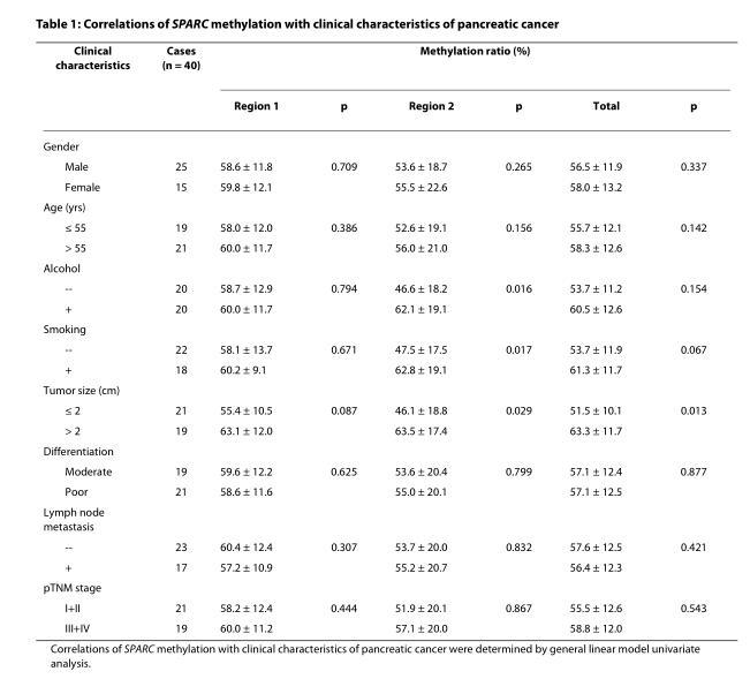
<table><thead><tr><td rowspan="2">Clinical characteristics</td><td rowspan="2">Cases (n = 40)</td><td colspan="6">Methylation ratio (%)</td></tr><tr><td>Region 1</td><td>p</td><td>Region 2</td><td>p</td><td>Total</td><td>p</td></tr></thead><tbody><tr><td colspan="8">Gender</td></tr><tr><td>Male</td><td>25</td><td>58.6 ± 11.8</td><td>0.709</td><td>53.6 ± 18.7</td><td>0.265</td><td>56.5 ± 11.9</td><td>0.337</td></tr><tr><td>Female</td><td>15</td><td>59.8 ± 12.1</td><td></td><td>55.5 ± 22.6</td><td></td><td>58.0 ± 13.2</td><td></td></tr><tr><td colspan="8">Age (yrs)</td></tr><tr><td>≤ 55</td><td>19</td><td>58.0 ± 12.0</td><td>0.386</td><td>52.6 ± 19.1</td><td>0.156</td><td>55.7 ± 12.1</td><td>0.142</td></tr><tr><td>&gt; 55</td><td>21</td><td>60.0 ± 11.7</td><td></td><td>56.0 ± 21.0</td><td></td><td>58.3 ± 12.6</td><td></td></tr><tr><td colspan="8">Alcohol</td></tr><tr><td>--</td><td>20</td><td>58.7 ± 12.9</td><td>0.794</td><td>46.6 ± 18.2</td><td>0.016</td><td>53.7 ± 11.2</td><td>0.154</td></tr><tr><td>+</td><td>20</td><td>60.0 ± 11.7</td><td></td><td>62.1 ± 19.1</td><td></td><td>60.5 ± 12.6</td><td></td></tr><tr><td colspan="8">Smoking</td></tr><tr><td>--</td><td>22</td><td>58.1 ± 13.7</td><td>0.671</td><td>47.5 ± 17.5</td><td>0.017</td><td>53.7 ± 11.9</td><td>0.067</td></tr><tr><td>+</td><td>18</td><td>60.2 ± 9.1</td><td></td><td>62.8 ± 19.1</td><td></td><td>61.3 ± 11.7</td><td></td></tr><tr><td colspan="8">Tumor size (cm)</td></tr><tr><td>≤ 2</td><td>21</td><td>55.4 ± 10.5</td><td>0.087</td><td>46.1 ± 18.8</td><td>0.029</td><td>51.5 ± 10.1</td><td>0.013</td></tr><tr><td>&gt; 2</td><td>19</td><td>63.1 ± 12.0</td><td></td><td>63.5 ± 17.4</td><td></td><td>63.3 ± 11.7</td><td></td></tr><tr><td colspan="8">Differentiation</td></tr><tr><td>Moderate</td><td>19</td><td>59.6 ± 12.2</td><td>0.625</td><td>53.6 ± 20.4</td><td>0.799</td><td>57.1 ± 12.4</td><td>0.877</td></tr><tr><td>Poor</td><td>21</td><td>58.6 ± 11.6</td><td></td><td>55.0 ± 20.1</td><td></td><td>57.1 ± 12.5</td><td></td></tr><tr><td colspan="8">Lymph node metastasis</td></tr><tr><td>--</td><td>23</td><td>60.4 ± 12.4</td><td>0.307</td><td>53.7 ± 20.0</td><td>0.832</td><td>57.6 ± 12.5</td><td>0.421</td></tr><tr><td>+</td><td>17</td><td>57.2 ± 10.9</td><td></td><td>55.2 ± 20.7</td><td></td><td>56.4 ± 12.3</td><td></td></tr><tr><td colspan="8">pTNM stage</td></tr><tr><td>I+II</td><td>21</td><td>58.2 ± 12.4</td><td>0.444</td><td>51.9 ± 20.1</td><td>0.867</td><td>55.5 ± 12.6</td><td>0.543</td></tr><tr><td>III+IV</td><td>19</td><td>60.0 ± 11.2</td><td></td><td>57.1 ± 20.0</td><td></td><td>58.8 ± 12.0</td><td></td></tr></tbody></table>